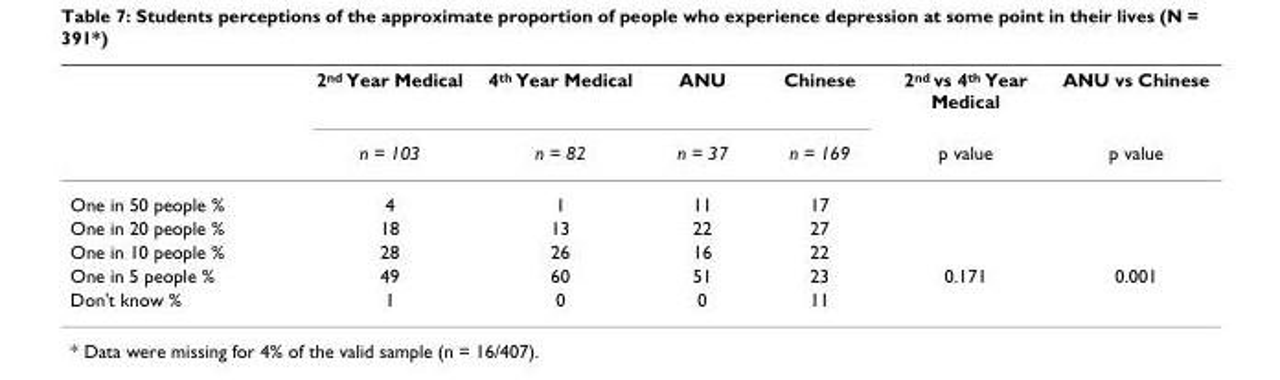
<table><thead><tr><td rowspan="2"></td><td rowspan="2">2<sup>nd</sup> Year Medical n = 103</td><td rowspan="2">4<sup>th</sup> Year Medical n = 82</td><td rowspan="2">ANU n = 37</td><td rowspan="2">Chinese n = 169</td><td rowspan="2">2<sup>nd</sup> vs 4<sup>th</sup> Year Medical p value</td><td rowspan="2">ANU vs Chinese p value</td></tr><tr></tr></thead><tbody><tr><td>One in 50 people %</td><td>4</td><td>1</td><td>11</td><td>17</td><td></td><td></td></tr><tr><td>One in 20 people %</td><td>18</td><td>13</td><td>22</td><td>27</td><td></td><td></td></tr><tr><td>One in 10 people %</td><td>28</td><td>26</td><td>16</td><td>22</td><td></td><td></td></tr><tr><td>One in 5 people %</td><td>49</td><td>60</td><td>51</td><td>23</td><td>0.171</td><td>0.001</td></tr><tr><td>Don&#x27;t know %</td><td>1</td><td>0</td><td>0</td><td>11</td><td></td><td></td></tr></tbody></table>